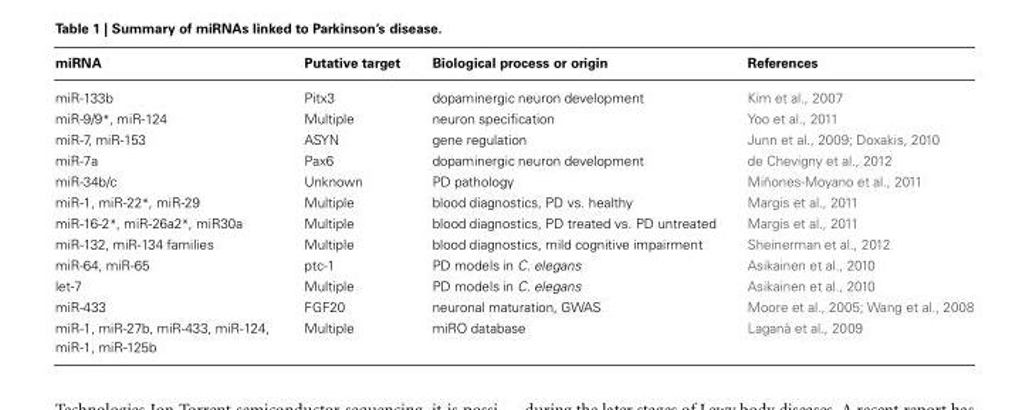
<table><thead><tr><td>miRNA</td><td>Putative target</td><td>Biological process or origin</td><td>References</td></tr></thead><tbody><tr><td>miR-133b</td><td>Pitx3</td><td>dopaminergic neuron development</td><td>Kim et al., 2007</td></tr><tr><td>miR-9/9*, miR-124</td><td>Multiple</td><td>neuron specification</td><td>Yoo et al., 2011</td></tr><tr><td>miR-7, miR-153</td><td>ASYN</td><td>gene regulation</td><td>Junn et al., 2009; Doxakis, 2010</td></tr><tr><td>miR-7a</td><td>Pax6</td><td>dopaminergic neuron development</td><td>de Chevigny et al., 2012</td></tr><tr><td>miR-34b/c</td><td>Unknown</td><td>PD pathology</td><td>Miñones-Moyano et al., 2011</td></tr><tr><td>miR-1, miR-22*, miR-29</td><td>Multiple</td><td>blood diagnostics, PD vs. healthy</td><td>Margis et al., 2011</td></tr><tr><td>miR-16-2*, miR-26a2*, miR30a</td><td>Multiple</td><td>blood diagnostics, PD treated vs. PD untreated</td><td>Margis et al., 2011</td></tr><tr><td>miR-132, miR-134 families</td><td>Multiple</td><td>blood diagnostics, mild cognitive impairment</td><td>Sheinerman et al., 2012</td></tr><tr><td>miR-64, miR-65</td><td>ptc-1</td><td>PD models in C. elegans</td><td>Asikainen et al., 2010</td></tr><tr><td>let-7</td><td>Multiple</td><td>PD models in C. elegans</td><td>Asikainen et al., 2010</td></tr><tr><td>miR-433</td><td>FGF20</td><td>neuronal maturation, GWAS</td><td>Moore et al., 2005; Wang et al., 2008</td></tr><tr><td>miR-1, miR-27b, miR-433, miR-124, miR-1, miR-125b</td><td>Multiple</td><td>miRO database</td><td>Laganà et al., 2009</td></tr></tbody></table>